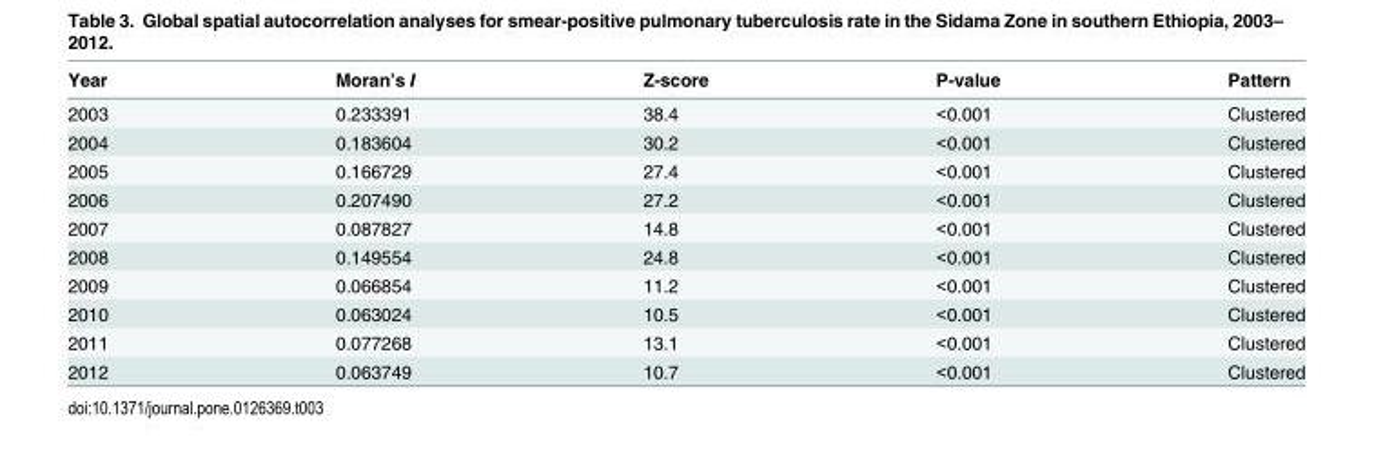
<table><thead><tr><td>Year</td><td>Moran’s I</td><td>Z-score</td><td>P-value</td><td>Pattern</td></tr></thead><tbody><tr><td>2003</td><td>0.233391</td><td>38.4</td><td>&lt;0.001</td><td>Clustered</td></tr><tr><td>2004</td><td>0.183604</td><td>30.2</td><td>&lt;0.001</td><td>Clustered</td></tr><tr><td>2005</td><td>0.166729</td><td>27.4</td><td>&lt;0.001</td><td>Clustered</td></tr><tr><td>2006</td><td>0.207490</td><td>27.2</td><td>&lt;0.001</td><td>Clustered</td></tr><tr><td>2007</td><td>0.087827</td><td>14.8</td><td>&lt;0.001</td><td>Clustered</td></tr><tr><td>2008</td><td>0.149554</td><td>24.8</td><td>&lt;0.001</td><td>Clustered</td></tr><tr><td>2009</td><td>0.066854</td><td>11.2</td><td>&lt;0.001</td><td>Clustered</td></tr><tr><td>2010</td><td>0.063024</td><td>10.5</td><td>&lt;0.001</td><td>Clustered</td></tr><tr><td>2011</td><td>0.077268</td><td>13.1</td><td>&lt;0.001</td><td>Clustered</td></tr><tr><td>2012</td><td>0.063749</td><td>10.7</td><td>&lt;0.001</td><td>Clustered</td></tr></tbody></table>